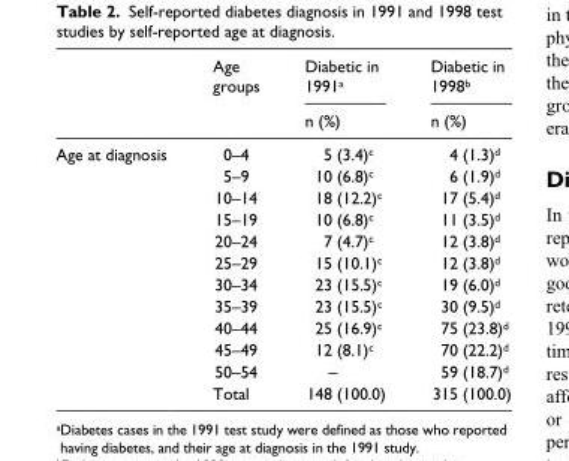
<table><thead><tr><td rowspan="2"></td><td rowspan="2">Age groups</td><td rowspan="2">Diabetic in 1991<sup>a</sup> n (%)</td><td rowspan="2">Diabetic in 1998<sup>b</sup> n (%)</td></tr><tr></tr></thead><tbody><tr><td rowspan="12">Age at diagnosis</td><td>0–4</td><td>5 (3.4)<sup>c</sup></td><td>4 (1.3)<sup>d</sup></td></tr><tr><td>5–9</td><td>10 (6.8)<sup>c</sup></td><td>6 (1.9)<sup>d</sup></td></tr><tr><td>10–14</td><td>18 (12.2)<sup>c</sup></td><td>17 (5.4)<sup>d</sup></td></tr><tr><td>15–19</td><td>10 (6.8)<sup>c</sup></td><td>11 (3.5)<sup>d</sup></td></tr><tr><td>20–24</td><td>7 (4.7)<sup>c</sup></td><td>12 (3.8)<sup>d</sup></td></tr><tr><td>25–29</td><td>15 (10.1)<sup>c</sup></td><td>12 (3.8)<sup>d</sup></td></tr><tr><td>30–34</td><td>23 (15.5)<sup>c</sup></td><td>19 (6.0)<sup>d</sup></td></tr><tr><td>35–39</td><td>23 (15.5)<sup>c</sup></td><td>30 (9.5)<sup>d</sup></td></tr><tr><td>40–44</td><td>25 (16.9)<sup>c</sup></td><td>75 (23.8)<sup>d</sup></td></tr><tr><td>45–49</td><td>12 (8.1)<sup>c</sup></td><td>70 (22.2)<sup>d</sup></td></tr><tr><td>50–54</td><td>–</td><td>59 (18.7)<sup>d</sup></td></tr><tr><td>Total</td><td>148 (100.0)</td><td>315 (100.0)</td></tr></tbody></table>